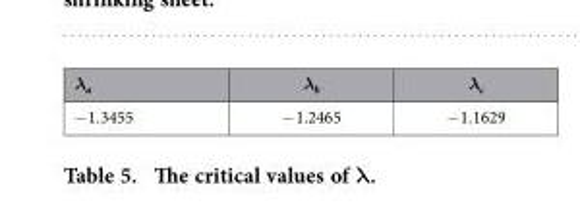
<table><thead><tr><td>λ<sub>a</sub></td><td>λ<sub>b</sub></td><td>λ<sub>c</sub></td></tr></thead><tbody><tr><td>− 1.3455</td><td>− 1.2465</td><td>− 1.1629</td></tr></tbody></table>